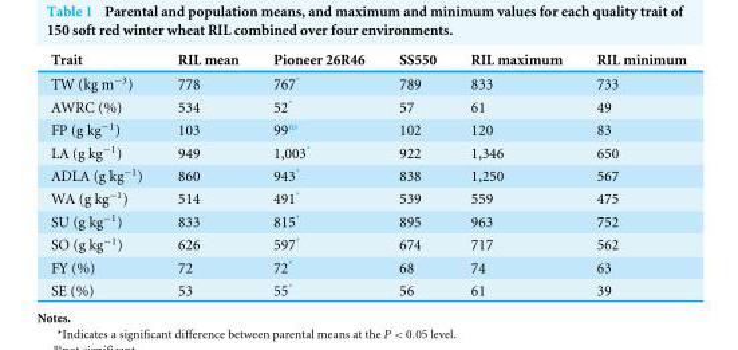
<table><thead><tr><td>Trait</td><td>RIL mean</td><td>Pioneer 26R46</td><td>SS550</td><td>RIL maximum</td><td>RIL minimum</td></tr></thead><tbody><tr><td>TW (kg m<sup>−3</sup>)</td><td>778</td><td>767*</td><td>789</td><td>833</td><td>733</td></tr><tr><td>AWRC (%)</td><td>534</td><td>52*</td><td>57</td><td>61</td><td>49</td></tr><tr><td>FP (g kg<sup>−1</sup>)</td><td>103</td><td>99<sup>ns</sup></td><td>102</td><td>120</td><td>83</td></tr><tr><td>LA (g kg<sup>−1</sup>)</td><td>949</td><td>1,003*</td><td>922</td><td>1,346</td><td>650</td></tr><tr><td>ADLA (g kg<sup>−1</sup>)</td><td>860</td><td>943*</td><td>838</td><td>1,250</td><td>567</td></tr><tr><td>WA (g kg<sup>−1</sup>)</td><td>514</td><td>491*</td><td>539</td><td>559</td><td>475</td></tr><tr><td>SU (g kg<sup>−1</sup>)</td><td>833</td><td>815*</td><td>895</td><td>963</td><td>752</td></tr><tr><td>SO (g kg<sup>−1</sup>)</td><td>626</td><td>597*</td><td>674</td><td>717</td><td>562</td></tr><tr><td>FY (%)</td><td>72</td><td>72*</td><td>68</td><td>74</td><td>63</td></tr><tr><td>SE (%)</td><td>53</td><td>55*</td><td>56</td><td>61</td><td>39</td></tr></tbody></table>